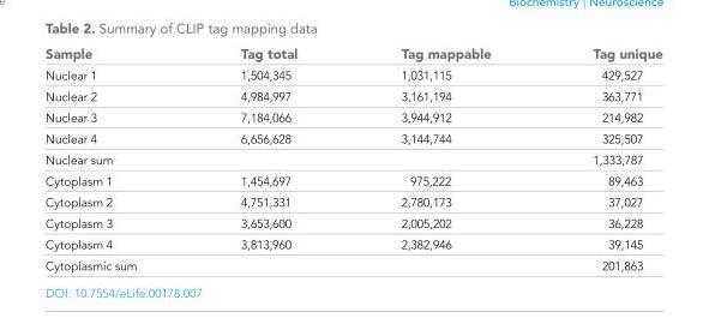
<table><thead><tr><td>Sample</td><td>Tag total</td><td>Tag mappable</td><td>Tag unique</td></tr></thead><tbody><tr><td>Nuclear 1</td><td>1,504,345</td><td>1,031,115</td><td>429,527</td></tr><tr><td>Nuclear 2</td><td>4,984,997</td><td>3,161,194</td><td>363,771</td></tr><tr><td>Nuclear 3</td><td>7,184,066</td><td>3,944,912</td><td>214,982</td></tr><tr><td>Nuclear 4</td><td>6,656,628</td><td>3,144,744</td><td>325,507</td></tr><tr><td>Nuclear sum</td><td></td><td></td><td>1,333,787</td></tr><tr><td>Cytoplasm 1</td><td>1,454,697</td><td>975,222</td><td>89,463</td></tr><tr><td>Cytoplasm 2</td><td>4,751,331</td><td>2,780,173</td><td>37,027</td></tr><tr><td>Cytoplasm 3</td><td>3,653,600</td><td>2,005,202</td><td>36,228</td></tr><tr><td>Cytoplasm 4</td><td>3,813,960</td><td>2,382,946</td><td>39,145</td></tr><tr><td>Cytoplasmic sum</td><td></td><td></td><td>201,863</td></tr></tbody></table>